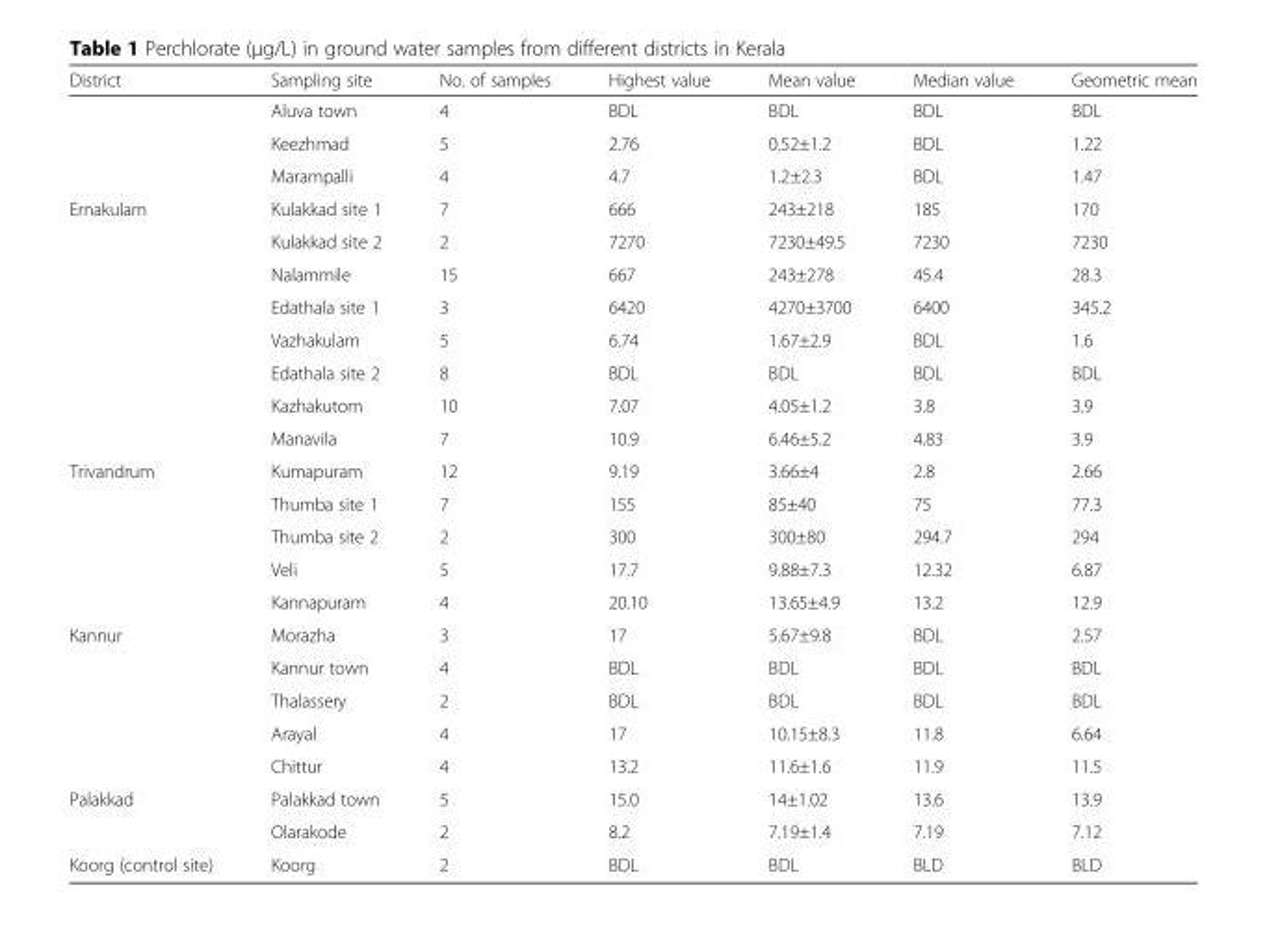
<table><thead><tr><td>District</td><td>Sampling site</td><td>No. of samples</td><td>Highest value</td><td>Mean value</td><td>Median value</td><td>Geometric mean</td></tr></thead><tbody><tr><td></td><td>Aluva town</td><td>4</td><td>BDL</td><td>BDL</td><td>BDL</td><td>BDL</td></tr><tr><td></td><td>Keezhmad</td><td>5</td><td>2.76</td><td>0.52±1.2</td><td>BDL</td><td>1.22</td></tr><tr><td></td><td>Marampalli</td><td>4</td><td>4.7</td><td>1.2±2.3</td><td>BDL</td><td>1.47</td></tr><tr><td rowspan="8">Ernakulam</td><td>Kulakkad site 1</td><td>7</td><td>666</td><td>243±218</td><td>185</td><td>170</td></tr><tr><td>Kulakkad site 2</td><td>2</td><td>7270</td><td>7230±49.5</td><td>7230</td><td>7230</td></tr><tr><td>Nalammile</td><td>15</td><td>667</td><td>243±278</td><td>45.4</td><td>28.3</td></tr><tr><td>Edathala site 1</td><td>3</td><td>6420</td><td>4270±3700</td><td>6400</td><td>345.2</td></tr><tr><td>Vazhakulam</td><td>5</td><td>6.74</td><td>1.67±2.9</td><td>BDL</td><td>1.6</td></tr><tr><td>Edathala site 2</td><td>8</td><td>BDL</td><td>BDL</td><td>BDL</td><td>BDL</td></tr><tr><td>Kazhakutom</td><td>10</td><td>7.07</td><td>4.05±1.2</td><td>3.8</td><td>3.9</td></tr><tr><td>Manavila</td><td>7</td><td>10.9</td><td>6.46±5.2</td><td>4.83</td><td>3.9</td></tr><tr><td rowspan="5">Trivandrum</td><td>Kumapuram</td><td>12</td><td>9.19</td><td>3.66±4</td><td>2.8</td><td>2.66</td></tr><tr><td>Thumba site 1</td><td>7</td><td>155</td><td>85±40</td><td>75</td><td>77.3</td></tr><tr><td>Thumba site 2</td><td>2</td><td>300</td><td>300±80</td><td>294.7</td><td>294</td></tr><tr><td>Veli</td><td>5</td><td>17.7</td><td>9.88±7.3</td><td>12.32</td><td>6.87</td></tr><tr><td>Kannapuram</td><td>4</td><td>20.10</td><td>13.65±4.9</td><td>13.2</td><td>12.9</td></tr><tr><td rowspan="5">Kannur</td><td>Morazha</td><td>3</td><td>17</td><td>5.67±9.8</td><td>BDL</td><td>2.57</td></tr><tr><td>Kannur town</td><td>4</td><td>BDL</td><td>BDL</td><td>BDL</td><td>BDL</td></tr><tr><td>Thalassery</td><td>2</td><td>BDL</td><td>BDL</td><td>BDL</td><td>BDL</td></tr><tr><td>Arayal</td><td>4</td><td>17</td><td>10.15±8.3</td><td>11.8</td><td>6.64</td></tr><tr><td>Chittur</td><td>4</td><td>13.2</td><td>11.6±1.6</td><td>11.9</td><td>11.5</td></tr><tr><td rowspan="2">Palakkad</td><td>Palakkad town</td><td>5</td><td>15.0</td><td>14±1.02</td><td>13.6</td><td>13.9</td></tr><tr><td>Olarakode</td><td>2</td><td>8.2</td><td>7.19±1.4</td><td>7.19</td><td>7.12</td></tr><tr><td>Koorg (control site)</td><td>Koorg</td><td>2</td><td>BDL</td><td>BDL</td><td>BLD</td><td>BLD</td></tr></tbody></table>